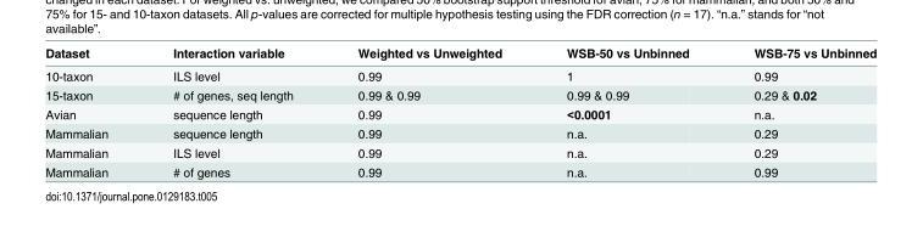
<table><thead><tr><td>Dataset</td><td>Interaction variable</td><td>Weighted vs Unweighted</td><td>WSB-50 vs Unbinned</td><td>WSB-75 vs Unbinned</td></tr></thead><tbody><tr><td>10-taxon</td><td>ILS level</td><td>0.99</td><td>1</td><td>0.99</td></tr><tr><td>15-taxon</td><td># of genes, seq length</td><td>0.99 &amp; 0.99</td><td>0.99 &amp; 0.99</td><td>0.29 &amp; 0.02</td></tr><tr><td>Avian</td><td>sequence length</td><td>0.99</td><td>&lt;0.0001</td><td>n.a.</td></tr><tr><td>Mammalian</td><td>sequence length</td><td>0.99</td><td>n.a.</td><td>0.29</td></tr><tr><td>Mammalian</td><td>ILS level</td><td>0.99</td><td>n.a.</td><td>0.29</td></tr><tr><td>Mammalian</td><td># of genes</td><td>0.99</td><td>n.a.</td><td>0.99</td></tr></tbody></table>